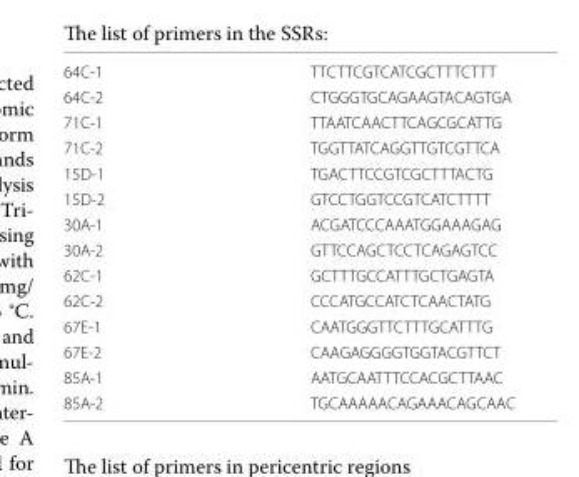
<table><tbody><tr><td>64C-1</td><td>TTCTTCGTCATCGCTTTCTTT</td></tr><tr><td>64C-2</td><td>CTGGGTGCAGAAGTACAGTGA</td></tr><tr><td>71C-1</td><td>TTAATCAACTTCAGCGCATTG</td></tr><tr><td>71C-2</td><td>TGGTTATCAGGTTGTCGTTCA</td></tr><tr><td>15D-1</td><td>TGACTTCCGTCGCTTTACTG</td></tr><tr><td>15D-2</td><td>GTCCTGGTCCGTCATCTTTT</td></tr><tr><td>30A-1</td><td>ACGATCCCAAATGGAAAGAG</td></tr><tr><td>30A-2</td><td>GTTCCAGCTCCTCAGAGTCC</td></tr><tr><td>62C-1</td><td>GCTTTGCCATTTGCTGAGTA</td></tr><tr><td>62C-2</td><td>CCCATGCCATCTCAACTATG</td></tr><tr><td>67E-1</td><td>CAATGGGTTCTTTGCATTTG</td></tr><tr><td>67E-2</td><td>CAAGAGGGGTGGTACGTTCT</td></tr><tr><td>85A-1</td><td>AATGCAATTTCCACGCTTAAC</td></tr><tr><td>85A-2</td><td>TGCAAAAACAGAAACAGCAAC</td></tr></tbody></table>